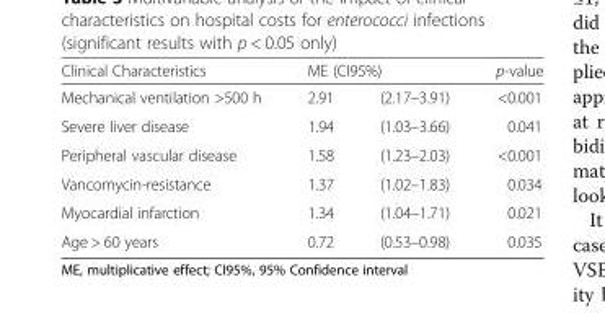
<table><thead><tr><td rowspan="2">Clinical Characteristics Mechanical ventilation &gt;500 h</td><td colspan="2">ME (CI95%)</td><td rowspan="2">p-value &lt;0.001</td></tr><tr><td>2.91</td><td>(2.17–3.91)</td></tr></thead><tbody><tr><td>Severe liver disease</td><td>1.94</td><td>(1.03–3.66)</td><td>0.041</td></tr><tr><td>Peripheral vascular disease</td><td>1.58</td><td>(1.23–2.03)</td><td>&lt;0.001</td></tr><tr><td>Vancomycin-resistance</td><td>1.37</td><td>(1.02–1.83)</td><td>0.034</td></tr><tr><td>Myocardial infarction</td><td>1.34</td><td>(1.04–1.71)</td><td>0.021</td></tr><tr><td>Age &gt; 60 years</td><td>0.72</td><td>(0.53–0.98)</td><td>0.035</td></tr></tbody></table>